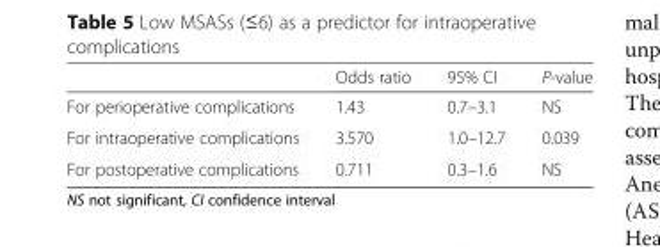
<table><thead><tr><td></td><td>Odds ratio</td><td>95% CI</td><td>P-value</td></tr></thead><tbody><tr><td>For perioperative complications</td><td>1.43</td><td>0.7–3.1</td><td>NS</td></tr><tr><td>For intraoperative complications</td><td>3.570</td><td>1.0–12.7</td><td>0.039</td></tr><tr><td>For postoperative complications</td><td>0.711</td><td>0.3–1.6</td><td>NS</td></tr></tbody></table>